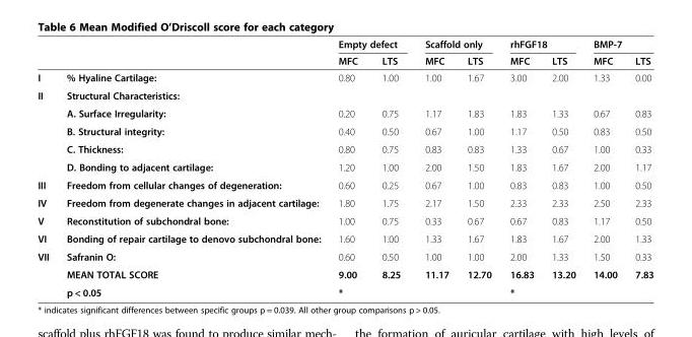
<table><thead><tr><td rowspan="2"></td><td rowspan="2"></td><td colspan="2">Empty defect</td><td colspan="2">Scaffold only</td><td colspan="2">rhFGF18</td><td colspan="2">BMP-7</td></tr><tr><td>MFC</td><td>LTS</td><td>MFC</td><td>LTS</td><td>MFC</td><td>LTS</td><td>MFC</td><td>LTS</td></tr></thead><tbody><tr><td>I</td><td>% Hyaline Cartilage:</td><td>0.80</td><td>1.00</td><td>1.00</td><td>1.67</td><td>3.00</td><td>2.00</td><td>1.33</td><td>0.00</td></tr><tr><td rowspan="5">II</td><td>Structural Characteristics:</td><td></td><td></td><td></td><td></td><td></td><td></td><td></td><td></td></tr><tr><td>A. Surface Irregularity:</td><td>0.20</td><td>0.75</td><td>1.17</td><td>1.83</td><td>1.83</td><td>1.33</td><td>0.67</td><td>0.83</td></tr><tr><td>B. Structural integrity:</td><td>0.40</td><td>0.50</td><td>0.67</td><td>1.00</td><td>1.17</td><td>0.50</td><td>0.83</td><td>0.50</td></tr><tr><td>C. Thickness:</td><td>0.80</td><td>0.75</td><td>0.83</td><td>0.83</td><td>1.33</td><td>0.67</td><td>1.00</td><td>0.33</td></tr><tr><td>D. Bonding to adjacent cartilage:</td><td>1.20</td><td>1.00</td><td>2.00</td><td>1.50</td><td>1.83</td><td>1.67</td><td>2.00</td><td>1.17</td></tr><tr><td>III</td><td>Freedom from cellular changes of degeneration:</td><td>0.60</td><td>0.25</td><td>0.67</td><td>1.00</td><td>0.83</td><td>0.83</td><td>1.00</td><td>0.50</td></tr><tr><td>IV</td><td>Freedom from degenerate changes in adjacent cartilage:</td><td>1.80</td><td>1.75</td><td>2.17</td><td>1.50</td><td>2.33</td><td>2.33</td><td>2.50</td><td>2.33</td></tr><tr><td>V</td><td>Reconstitution of subchondral bone:</td><td>1.00</td><td>0.75</td><td>0.33</td><td>0.67</td><td>0.67</td><td>0.83</td><td>1.17</td><td>0.50</td></tr><tr><td>VI</td><td>Bonding of repair cartilage to denovo subchondral bone:</td><td>1.60</td><td>1.00</td><td>1.33</td><td>1.67</td><td>1.83</td><td>1.67</td><td>2.00</td><td>1.33</td></tr><tr><td rowspan="3">VII</td><td>Safranin O:</td><td>0.60</td><td>0.50</td><td>1.00</td><td>1.00</td><td>2.00</td><td>1.33</td><td>1.50</td><td>0.33</td></tr><tr><td>MEAN TOTAL SCORE</td><td>9.00</td><td>8.25</td><td>11.17</td><td>12.70</td><td>16.83</td><td>13.20</td><td>14.00</td><td>7.83</td></tr><tr><td>p &lt; 0.05</td><td>*</td><td></td><td></td><td></td><td>*</td><td></td><td></td><td></td></tr></tbody></table>